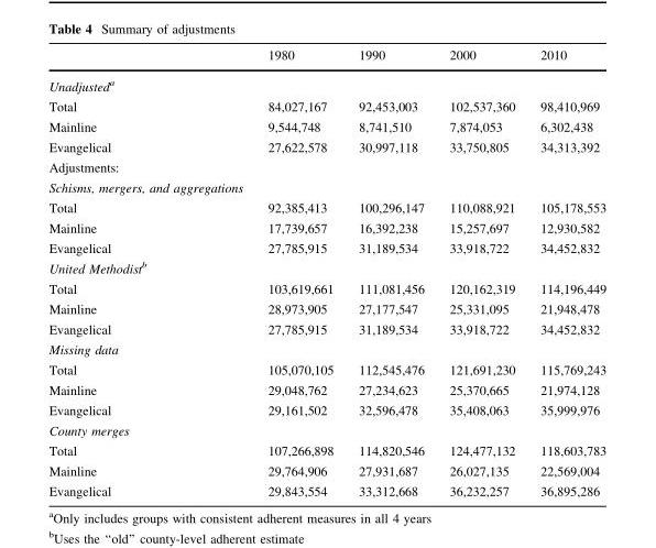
<table><thead><tr><td></td><td>1980</td><td>1990</td><td>2000</td><td>2010</td></tr></thead><tbody><tr><td colspan="5">Unadjusted<sup>a</sup></td></tr><tr><td>Total</td><td>84,027,167</td><td>92,453,003</td><td>102,537,360</td><td>98,410,969</td></tr><tr><td>Mainline</td><td>9,544,748</td><td>8,741,510</td><td>7,874,053</td><td>6,302,438</td></tr><tr><td>Evangelical</td><td>27,622,578</td><td>30,997,118</td><td>33,750,805</td><td>34,313,392</td></tr><tr><td colspan="5">Adjustments:</td></tr><tr><td colspan="5">Schisms, mergers, and aggregations</td></tr><tr><td>Total</td><td>92,385,413</td><td>100,296,147</td><td>110,088,921</td><td>105,178,553</td></tr><tr><td>Mainline</td><td>17,739,657</td><td>16,392,238</td><td>15,257,697</td><td>12,930,582</td></tr><tr><td>Evangelical</td><td>27,785,915</td><td>31,189,534</td><td>33,918,722</td><td>34,452,832</td></tr><tr><td colspan="5">United Methodist<sup>b</sup></td></tr><tr><td>Total</td><td>103,619,661</td><td>111,081,456</td><td>120,162,319</td><td>114,196,449</td></tr><tr><td>Mainline</td><td>28,973,905</td><td>27,177,547</td><td>25,331,095</td><td>21,948,478</td></tr><tr><td>Evangelical</td><td>27,785,915</td><td>31,189,534</td><td>33,918,722</td><td>34,452,832</td></tr><tr><td colspan="5">Missing data</td></tr><tr><td>Total</td><td>105,070,105</td><td>112,545,476</td><td>121,691,230</td><td>115,769,243</td></tr><tr><td>Mainline</td><td>29,048,762</td><td>27,234,623</td><td>25,370,665</td><td>21,974,128</td></tr><tr><td>Evangelical</td><td>29,161,502</td><td>32,596,478</td><td>35,408,063</td><td>35,999,976</td></tr><tr><td colspan="5">County merges</td></tr><tr><td>Total</td><td>107,266,898</td><td>114,820,546</td><td>124,477,132</td><td>118,603,783</td></tr><tr><td>Mainline</td><td>29,764,906</td><td>27,931,687</td><td>26,027,135</td><td>22,569,004</td></tr><tr><td>Evangelical</td><td>29,843,554</td><td>33,312,668</td><td>36,232,257</td><td>36,895,286</td></tr></tbody></table>